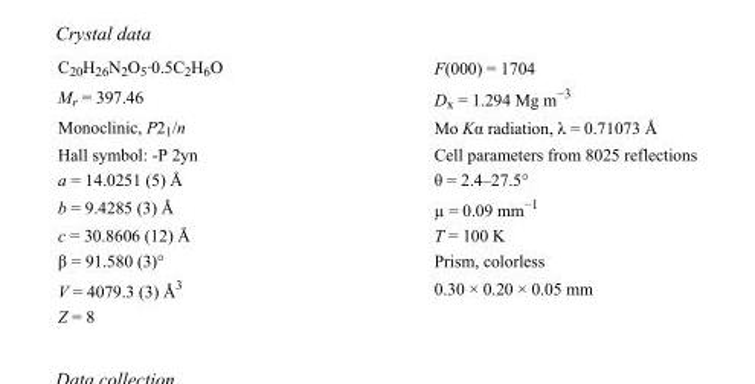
<table><tbody><tr><td>C<sub>20</sub>H<sub>26</sub>N<sub>2</sub>O<sub>5</sub>·0.5C<sub>2</sub>H<sub>6</sub>O</td><td>F(000) = 1704</td></tr><tr><td>M<sub>r</sub> = 397.46</td><td>D<sub>x</sub> = 1.294 Mg m<sup>−3</sup></td></tr><tr><td>Monoclinic, P2<sub>1</sub>/n</td><td>Mo Kα radiation, λ = 0.71073 Å</td></tr><tr><td>Hall symbol: -P 2yn</td><td>Cell parameters from 8025 reflections</td></tr><tr><td>a = 14.0251 (5) Å</td><td>θ = 2.4–27.5°</td></tr><tr><td>b = 9.4285 (3) Å</td><td>µ = 0.09 mm<sup>−1</sup></td></tr><tr><td>c = 30.8606 (12) Å</td><td>T = 100 K</td></tr><tr><td>β = 91.580 (3)°</td><td>Prism, colorless</td></tr><tr><td>V = 4079.3 (3) Å<sup>3</sup></td><td>0.30 × 0.20 × 0.05 mm</td></tr><tr><td>Z = 8</td><td></td></tr></tbody></table>